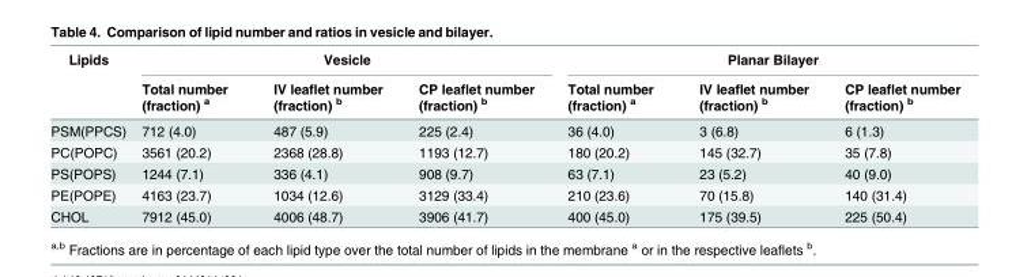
<table><thead><tr><td rowspan="2">Lipids</td><td colspan="3">Vesicle</td><td colspan="3">Planar Bilayer</td></tr><tr><td>Total number (fraction) <sup>a</sup></td><td>IV leaflet number (fraction) <sup>b</sup></td><td>CP leaflet number (fraction) <sup>b</sup></td><td>Total number (fraction) <sup>a</sup></td><td>IV leaflet number (fraction) <sup>b</sup></td><td>CP leaflet number (fraction) <sup>b</sup></td></tr></thead><tbody><tr><td>PSM(PPCS)</td><td>712 (4.0)</td><td>487 (5.9)</td><td>225 (2.4)</td><td>36 (4.0)</td><td>3 (6.8)</td><td>6 (1.3)</td></tr><tr><td>PC(POPC)</td><td>3561 (20.2)</td><td>2368 (28.8)</td><td>1193 (12.7)</td><td>180 (20.2)</td><td>145 (32.7)</td><td>35 (7.8)</td></tr><tr><td>PS(POPS)</td><td>1244 (7.1)</td><td>336 (4.1)</td><td>908 (9.7)</td><td>63 (7.1)</td><td>23 (5.2)</td><td>40 (9.0)</td></tr><tr><td>PE(POPE)</td><td>4163 (23.7)</td><td>1034 (12.6)</td><td>3129 (33.4)</td><td>210 (23.6)</td><td>70 (15.8)</td><td>140 (31.4)</td></tr><tr><td>CHOL</td><td>7912 (45.0)</td><td>4006 (48.7)</td><td>3906 (41.7)</td><td>400 (45.0)</td><td>175 (39.5)</td><td>225 (50.4)</td></tr></tbody></table>